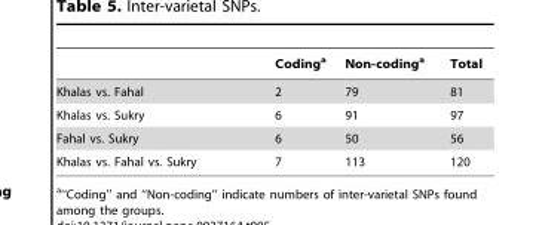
<table><thead><tr><td></td><td>Coding<sup>a</sup></td><td>Non-coding<sup>a</sup></td><td>Total</td></tr></thead><tbody><tr><td>Khalas vs. Fahal</td><td>2</td><td>79</td><td>81</td></tr><tr><td>Khalas vs. Sukry</td><td>6</td><td>91</td><td>97</td></tr><tr><td>Fahal vs. Sukry</td><td>6</td><td>50</td><td>56</td></tr><tr><td>Khalas vs. Fahal vs. Sukry</td><td>7</td><td>113</td><td>120</td></tr></tbody></table>